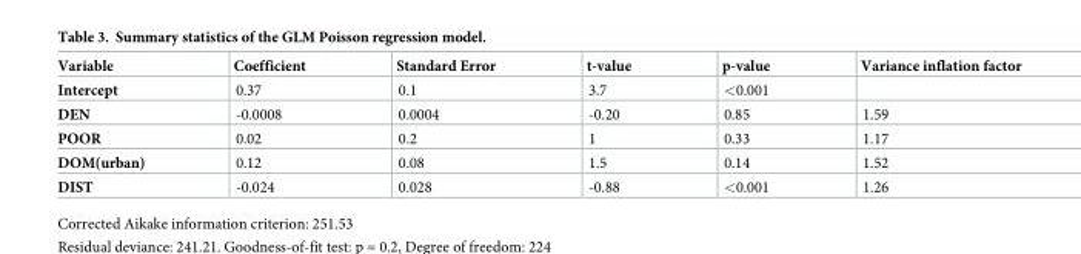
<table><thead><tr><td>Variable</td><td>Coefficient</td><td>Standard Error</td><td>t-value</td><td>p-value</td><td>Variance inflation factor</td></tr></thead><tbody><tr><td>Intercept</td><td>0.37</td><td>0.1</td><td>3.7</td><td>&lt;0.001</td><td></td></tr><tr><td>DEN</td><td>-0.0008</td><td>0.0004</td><td>-0.20</td><td>0.85</td><td>1.59</td></tr><tr><td>POOR</td><td>0.02</td><td>0.2</td><td>1</td><td>0.33</td><td>1.17</td></tr><tr><td>DOM(urban)</td><td>0.12</td><td>0.08</td><td>1.5</td><td>0.14</td><td>1.52</td></tr><tr><td>DIST</td><td>-0.024</td><td>0.028</td><td>-0.88</td><td>&lt;0.001</td><td>1.26</td></tr></tbody></table>